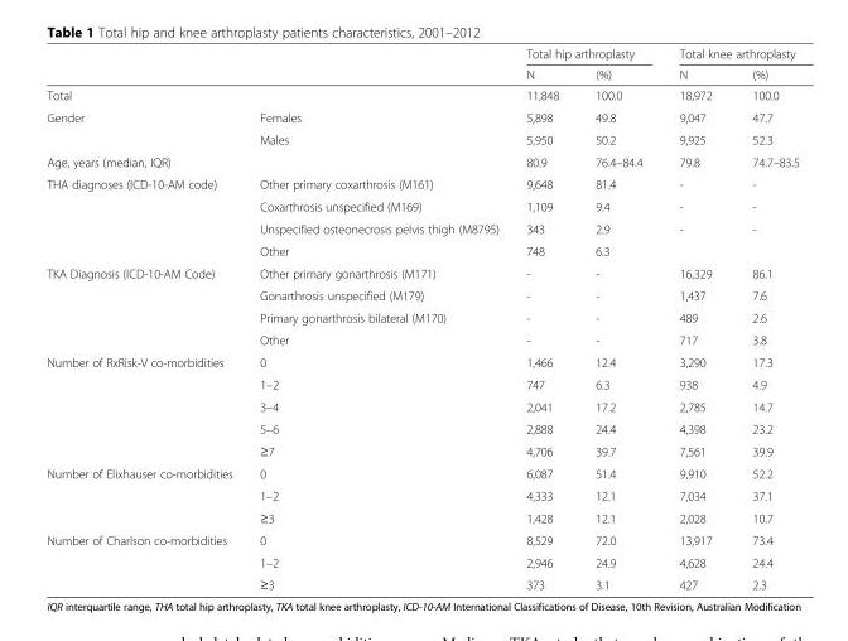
<table><thead><tr><td rowspan="2"></td><td rowspan="2"></td><td colspan="2">Total hip arthroplasty</td><td colspan="2">Total knee arthroplasty</td></tr><tr><td>N</td><td>(%)</td><td>N</td><td>(%)</td></tr></thead><tbody><tr><td>Total</td><td></td><td>11,848</td><td>100.0</td><td>18,972</td><td>100.0</td></tr><tr><td rowspan="2">Gender</td><td>Females</td><td>5,898</td><td>49.8</td><td>9,047</td><td>47.7</td></tr><tr><td>Males</td><td>5,950</td><td>50.2</td><td>9,925</td><td>52.3</td></tr><tr><td>Age, years (median, IQR)</td><td></td><td>80.9</td><td>76.4–84.4</td><td>79.8</td><td>74.7–83.5</td></tr><tr><td rowspan="4">THA diagnoses (ICD-10-AM code)</td><td>Other primary coxarthrosis (M161)</td><td>9,648</td><td>81.4</td><td>-</td><td>-</td></tr><tr><td>Coxarthrosis unspecified (M169)</td><td>1,109</td><td>9.4</td><td>-</td><td>-</td></tr><tr><td>Unspecified osteonecrosis pelvis thigh (M8795)</td><td>343</td><td>2.9</td><td>-</td><td>-</td></tr><tr><td>Other</td><td>748</td><td>6.3</td><td></td><td></td></tr><tr><td rowspan="4">TKA Diagnosis (ICD-10-AM Code)</td><td>Other primary gonarthrosis (M171)</td><td>-</td><td>-</td><td>16,329</td><td>86.1</td></tr><tr><td>Gonarthrosis unspecified (M179)</td><td>-</td><td>-</td><td>1,437</td><td>7.6</td></tr><tr><td>Primary gonarthrosis bilateral (M170)</td><td>-</td><td>-</td><td>489</td><td>2.6</td></tr><tr><td>Other</td><td>-</td><td>-</td><td>717</td><td>3.8</td></tr><tr><td rowspan="5">Number of RxRisk-V co-morbidities</td><td>0</td><td>1,466</td><td>12.4</td><td>3,290</td><td>17.3</td></tr><tr><td>1–2</td><td>747</td><td>6.3</td><td>938</td><td>4.9</td></tr><tr><td>3–4</td><td>2,041</td><td>17.2</td><td>2,785</td><td>14.7</td></tr><tr><td>5–6</td><td>2,888</td><td>24.4</td><td>4,398</td><td>23.2</td></tr><tr><td>≥7</td><td>4,706</td><td>39.7</td><td>7,561</td><td>39.9</td></tr><tr><td rowspan="3">Number of Elixhauser co-morbidities</td><td>0</td><td>6,087</td><td>51.4</td><td>9,910</td><td>52.2</td></tr><tr><td>1–2</td><td>4,333</td><td>12.1</td><td>7,034</td><td>37.1</td></tr><tr><td>≥3</td><td>1,428</td><td>12.1</td><td>2,028</td><td>10.7</td></tr><tr><td rowspan="3">Number of Charlson co-morbidities</td><td>0</td><td>8,529</td><td>72.0</td><td>13,917</td><td>73.4</td></tr><tr><td>1–2</td><td>2,946</td><td>24.9</td><td>4,628</td><td>24.4</td></tr><tr><td>≥3</td><td>373</td><td>3.1</td><td>427</td><td>2.3</td></tr></tbody></table>